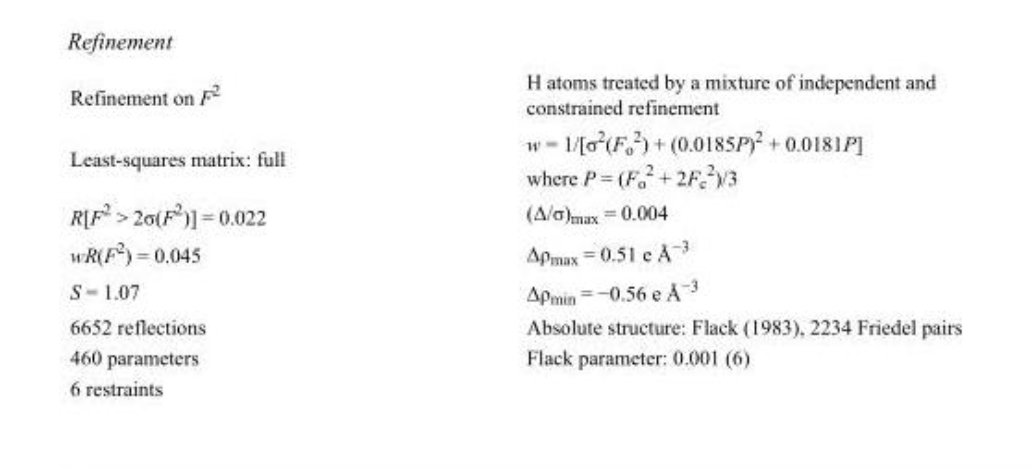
<table><tbody><tr><td>Refinement on F<sup>2</sup></td><td>H atoms treated by a mixture of independent and constrained refinement</td></tr><tr><td>Least-squares matrix: full</td><td>w = 1/[σ<sup>2</sup>(F<sub>o</sub> <sup>2</sup>) + (0.0185P)<sup>2</sup> + 0.0181P] where P = (F<sub>o</sub> <sup>2</sup> + 2F<sub>c</sub> <sup>2</sup>)/3</td></tr><tr><td>R[F<sup>2</sup> &gt; 2σ(F<sup>2</sup>)] = 0.022</td><td>(Δ/σ)<sub>max</sub> = 0.004</td></tr><tr><td>wR(F<sup>2</sup>) = 0.045</td><td>Δρ<sub>max</sub> = 0.51 e Å<sup>−3</sup></td></tr><tr><td>S = 1.07</td><td>Δρ<sub>min</sub> = −0.56 e Å<sup>−3</sup></td></tr><tr><td>6652 reflections</td><td>Absolute structure: Flack (1983), 2234 Friedel pairs</td></tr><tr><td>460 parameters</td><td>Flack parameter: 0.001 (6)</td></tr><tr><td>6 restraints</td><td></td></tr></tbody></table>